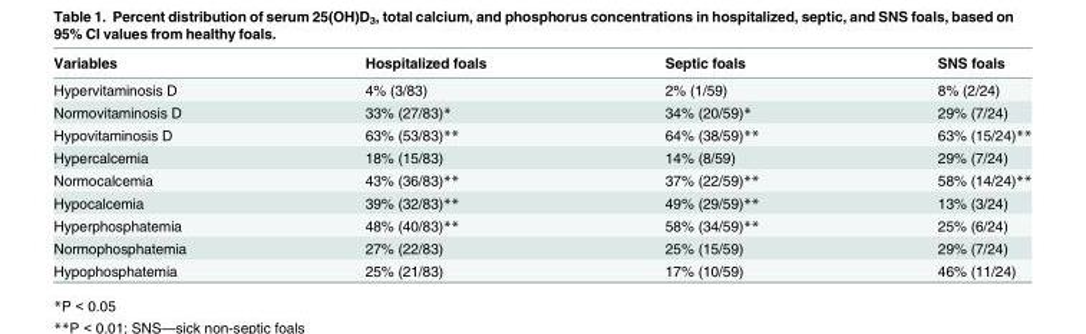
<table><thead><tr><td>Variables</td><td>Hospitalized foals</td><td>Septic foals</td><td>SNS foals</td></tr></thead><tbody><tr><td>Hypervitaminosis D</td><td>4% (3/83)</td><td>2% (1/59)</td><td>8% (2/24)</td></tr><tr><td>Normovitaminosis D</td><td>33% (27/83)*</td><td>34% (20/59)*</td><td>29% (7/24)</td></tr><tr><td>Hypovitaminosis D</td><td>63% (53/83)**</td><td>64% (38/59)**</td><td>63% (15/24)**</td></tr><tr><td>Hypercalcemia</td><td>18% (15/83)</td><td>14% (8/59)</td><td>29% (7/24)</td></tr><tr><td>Normocalcemia</td><td>43% (36/83)**</td><td>37% (22/59)**</td><td>58% (14/24)**</td></tr><tr><td>Hypocalcemia</td><td>39% (32/83)**</td><td>49% (29/59)**</td><td>13% (3/24)</td></tr><tr><td>Hyperphosphatemia</td><td>48% (40/83)**</td><td>58% (34/59)**</td><td>25% (6/24)</td></tr><tr><td>Normophosphatemia</td><td>27% (22/83)</td><td>25% (15/59)</td><td>29% (7/24)</td></tr><tr><td>Hypophosphatemia</td><td>25% (21/83)</td><td>17% (10/59)</td><td>46% (11/24)</td></tr></tbody></table>